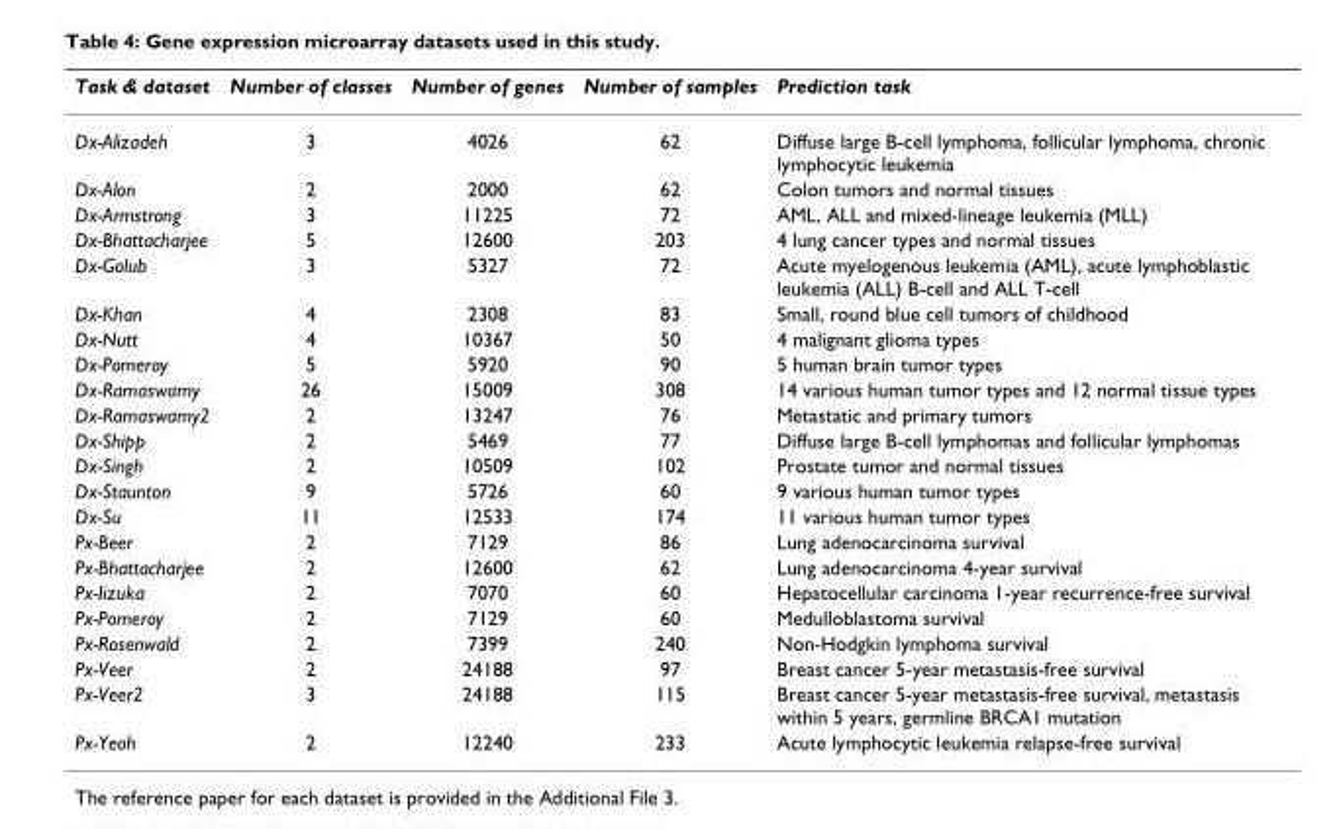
<table><thead><tr><td>Task &amp; dataset</td><td>Number of classes</td><td>Number of genes</td><td>Number of samples</td><td>Prediction task</td></tr></thead><tbody><tr><td>Dx-Alizadeh</td><td>3</td><td>4026</td><td>62</td><td>Diffuse large B-cell lymphoma, follicular lymphoma, chronic lymphocytic leukemia</td></tr><tr><td>Dx-Alon</td><td>2</td><td>2000</td><td>62</td><td>Colon tumors and normal tissues</td></tr><tr><td>Dx-Armstrong</td><td>3</td><td>11225</td><td>72</td><td>AML, ALL and mixed-lineage leukemia (MLL)</td></tr><tr><td>Dx-Bhattacharjee</td><td>5</td><td>12600</td><td>203</td><td>4 lung cancer types and normal tissues</td></tr><tr><td>Dx-Golub</td><td>3</td><td>5327</td><td>72</td><td>Acute myelogenous leukemia (AML), acute lymphoblastic leukemia (ALL) B-cell and ALL T-cell</td></tr><tr><td>Dx-Khan</td><td>4</td><td>2308</td><td>83</td><td>Small, round blue cell tumors of childhood</td></tr><tr><td>Dx-Nutt</td><td>4</td><td>10367</td><td>50</td><td>4 malignant glioma types</td></tr><tr><td>Dx-Pomeroy</td><td>5</td><td>5920</td><td>90</td><td>5 human brain tumor types</td></tr><tr><td>Dx-Ramaswamy</td><td>26</td><td>15009</td><td>308</td><td>14 various human tumor types and 12 normal tissue types</td></tr><tr><td>Dx-Ramaswamy2</td><td>2</td><td>13247</td><td>76</td><td>Metastatic and primary tumors</td></tr><tr><td>Dx-Shipp</td><td>2</td><td>5469</td><td>77</td><td>Diffuse large B-cell lymphomas and follicular lymphomas</td></tr><tr><td>Dx-Singh</td><td>2</td><td>10509</td><td>102</td><td>Prostate tumor and normal tissues</td></tr><tr><td>Dx-Staunton</td><td>9</td><td>5726</td><td>60</td><td>9 various human tumor types</td></tr><tr><td>Dx-Su</td><td>11</td><td>12533</td><td>174</td><td>11 various human tumor types</td></tr><tr><td>Px-Beer</td><td>2</td><td>7129</td><td>86</td><td>Lung adenocarcinoma survival</td></tr><tr><td>Px-Bhattacharjee</td><td>2</td><td>12600</td><td>62</td><td>Lung adenocarcinoma 4-year survival</td></tr><tr><td>Px-Iizuka</td><td>2</td><td>7070</td><td>60</td><td>Hepatocellular carcinoma 1-year recurrence-free survival</td></tr><tr><td>Px-Pomeroy</td><td>2</td><td>7129</td><td>60</td><td>Medulloblastoma survival</td></tr><tr><td>Px-Rosenwald</td><td>2</td><td>7399</td><td>240</td><td>Non-Hodgkin lymphoma survival</td></tr><tr><td>Px-Veer</td><td>2</td><td>24188</td><td>97</td><td>Breast cancer 5-year metastasis-free survival</td></tr><tr><td>Px-Veer2</td><td>3</td><td>24188</td><td>115</td><td>Breast cancer 5-year metastasis-free survival, metastasis within 5 years, germline BRCA1 mutation</td></tr><tr><td>Px-Yeoh</td><td>2</td><td>12240</td><td>233</td><td>Acute lymphocytic leukemia relapse-free survival</td></tr></tbody></table>